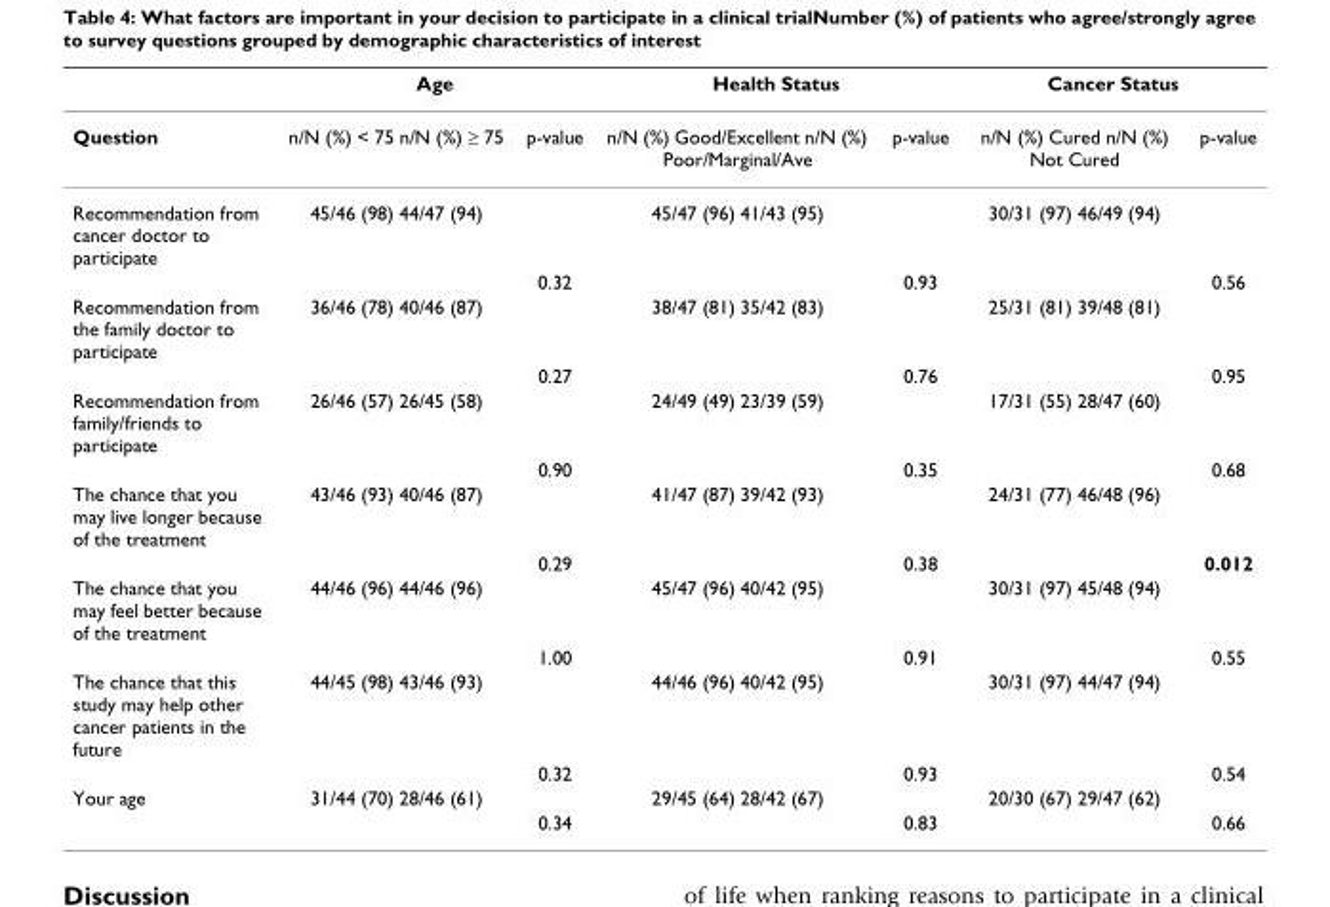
<table><thead><tr><td rowspan="2">Question</td><td colspan="2">Age</td><td colspan="2">Health Status</td><td colspan="2">Cancer Status</td></tr><tr><td>n/N (%) &lt; 75 n/N (%) ≥ 75</td><td>p-value</td><td>n/N (%) Good/Excellent n/N (%) Poor/Marginal/Ave</td><td>p-value</td><td>n/N (%) Cured n/N (%) Not Cured</td><td>p-value</td></tr></thead><tbody><tr><td rowspan="2">Recommendation from cancer doctor to participate</td><td>45/46 (98) 44/47 (94)</td><td></td><td>45/47 (96) 41/43 (95)</td><td></td><td>30/31 (97) 46/49 (94)</td><td></td></tr><tr><td></td><td>0.32</td><td></td><td>0.93</td><td></td><td>0.56</td></tr><tr><td rowspan="2">Recommendation from the family doctor to participate</td><td>36/46 (78) 40/46 (87)</td><td></td><td>38/47 (81) 35/42 (83)</td><td></td><td>25/31 (81) 39/48 (81)</td><td></td></tr><tr><td></td><td>0.27</td><td></td><td>0.76</td><td></td><td>0.95</td></tr><tr><td rowspan="2">Recommendation from family/friends to participate</td><td>26/46 (57) 26/45 (58)</td><td></td><td>24/49 (49) 23/39 (59)</td><td></td><td>17/31 (55) 28/47 (60)</td><td></td></tr><tr><td></td><td>0.90</td><td></td><td>0.35</td><td></td><td>0.68</td></tr><tr><td rowspan="2">The chance that you may live longer because of the treatment</td><td>43/46 (93) 40/46 (87)</td><td></td><td>41/47 (87) 39/42 (93)</td><td></td><td>24/31 (77) 46/48 (96)</td><td></td></tr><tr><td></td><td>0.29</td><td></td><td>0.38</td><td></td><td>0.012</td></tr><tr><td rowspan="2">The chance that you may feel better because of the treatment</td><td>44/46 (96) 44/46 (96)</td><td></td><td>45/47 (96) 40/42 (95)</td><td></td><td>30/31 (97) 45/48 (94)</td><td></td></tr><tr><td></td><td>1.00</td><td></td><td>0.91</td><td></td><td>0.55</td></tr><tr><td rowspan="2">The chance that this study may help other cancer patients in the future</td><td>44/45 (98) 43/46 (93)</td><td></td><td>44/46 (96) 40/42 (95)</td><td></td><td>30/31 (97) 44/47 (94)</td><td></td></tr><tr><td></td><td>0.32</td><td></td><td>0.93</td><td></td><td>0.54</td></tr><tr><td rowspan="2">Your age</td><td>31/44 (70) 28/46 (61)</td><td></td><td>29/45 (64) 28/42 (67)</td><td></td><td>20/30 (67) 29/47 (62)</td><td></td></tr><tr><td></td><td>0.34</td><td></td><td>0.83</td><td></td><td>0.66</td></tr></tbody></table>